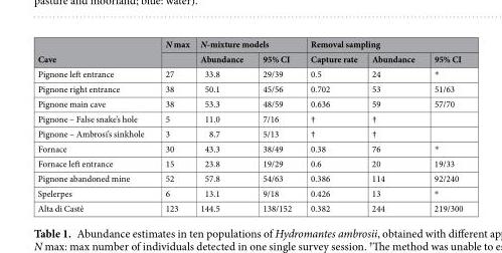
<table><thead><tr><td rowspan="2">Cave</td><td rowspan="2">N max</td><td colspan="2">N-mixture models</td><td colspan="3">Removal sampling</td></tr><tr><td>Abundance</td><td>95% CI</td><td>Capture rate</td><td>Abundance</td><td>95% CI</td></tr></thead><tbody><tr><td>Pignone left entrance</td><td>27</td><td>33.8</td><td>29/39</td><td>0.5</td><td>24</td><td>*</td></tr><tr><td>Pignone right entrance</td><td>38</td><td>50.1</td><td>45/56</td><td>0.702</td><td>53</td><td>51/63</td></tr><tr><td>Pignone main cave</td><td>38</td><td>53.3</td><td>48/59</td><td>0.636</td><td>59</td><td>57/70</td></tr><tr><td>Pignone – False snake’s hole</td><td>5</td><td>11.0</td><td>7/16</td><td>†</td><td>†</td><td></td></tr><tr><td>Pignone – Ambrosi’s sinkhole</td><td>3</td><td>8.7</td><td>5/13</td><td>†</td><td>†</td><td></td></tr><tr><td>Fornace</td><td>30</td><td>43.3</td><td>38/49</td><td>0.38</td><td>76</td><td>*</td></tr><tr><td>Fornace left entrance</td><td>15</td><td>23.8</td><td>19/29</td><td>0.6</td><td>20</td><td>19/33</td></tr><tr><td>Pignone abandoned mine</td><td>52</td><td>57.8</td><td>54/63</td><td>0.386</td><td>114</td><td>92/240</td></tr><tr><td>Spelerpes</td><td>6</td><td>13.1</td><td>9/18</td><td>0.426</td><td>13</td><td>*</td></tr><tr><td>Alta di Castè</td><td>123</td><td>144.5</td><td>138/152</td><td>0.382</td><td>244</td><td>219/300</td></tr></tbody></table>